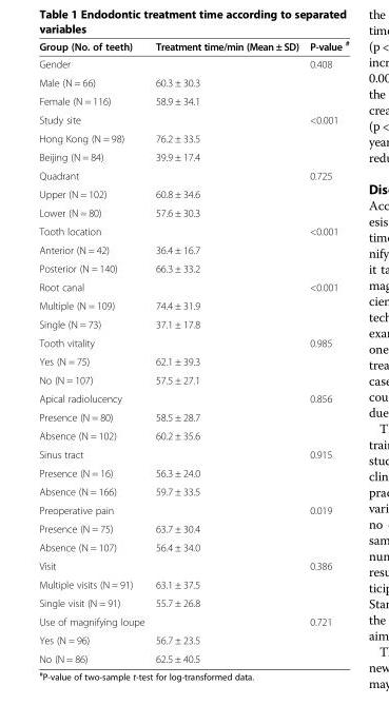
<table><thead><tr><td>Group (No. of teeth)</td><td>Treatment time/min (Mean ± SD)</td><td>P-value <sup>#</sup></td></tr></thead><tbody><tr><td>Gender</td><td></td><td>0.408</td></tr><tr><td>Male (N = 66)</td><td>60.3 ± 30.3</td><td></td></tr><tr><td>Female (N = 116)</td><td>58.9 ± 34.1</td><td></td></tr><tr><td>Study site</td><td></td><td>&lt;0.001</td></tr><tr><td>Hong Kong (N = 98)</td><td>76.2 ± 33.5</td><td></td></tr><tr><td>Beijing (N = 84)</td><td>39.9 ± 17.4</td><td></td></tr><tr><td>Quadrant</td><td></td><td>0.725</td></tr><tr><td>Upper (N = 102)</td><td>60.8 ± 34.6</td><td></td></tr><tr><td>Lower (N = 80)</td><td>57.6 ± 30.3</td><td></td></tr><tr><td>Tooth location</td><td></td><td>&lt;0.001</td></tr><tr><td>Anterior (N = 42)</td><td>36.4 ± 16.7</td><td></td></tr><tr><td>Posterior (N = 140)</td><td>66.3 ± 33.2</td><td></td></tr><tr><td>Root canal</td><td></td><td>&lt;0.001</td></tr><tr><td>Multiple (N = 109)</td><td>74.4 ± 31.9</td><td></td></tr><tr><td>Single (N = 73)</td><td>37.1 ± 17.8</td><td></td></tr><tr><td>Tooth vitality</td><td></td><td>0.985</td></tr><tr><td>Yes (N = 75)</td><td>62.1 ± 39.3</td><td></td></tr><tr><td>No (N = 107)</td><td>57.5 ± 27.1</td><td></td></tr><tr><td>Apical radiolucency</td><td></td><td>0.856</td></tr><tr><td>Presence (N = 80)</td><td>58.5 ± 28.7</td><td></td></tr><tr><td>Absence (N = 102)</td><td>60.2 ± 35.6</td><td></td></tr><tr><td>Sinus tract</td><td></td><td>0.915</td></tr><tr><td>Presence (N = 16)</td><td>56.3 ± 24.0</td><td></td></tr><tr><td>Absence (N = 166)</td><td>59.7 ± 33.5</td><td></td></tr><tr><td>Preoperative pain</td><td></td><td>0.019</td></tr><tr><td>Presence (N = 75)</td><td>63.7 ± 30.4</td><td></td></tr><tr><td>Absence (N = 107)</td><td>56.4 ± 34.0</td><td></td></tr><tr><td>Visit</td><td></td><td>0.386</td></tr><tr><td>Multiple visits (N = 91)</td><td>63.1 ± 37.5</td><td></td></tr><tr><td>Single visit (N = 91)</td><td>55.7 ± 26.8</td><td></td></tr><tr><td>Use of magnifying loupe</td><td></td><td>0.721</td></tr><tr><td>Yes (N = 96)</td><td>56.7 ± 23.5</td><td></td></tr><tr><td>No (N = 86)</td><td>62.5 ± 40.5</td><td></td></tr></tbody></table>